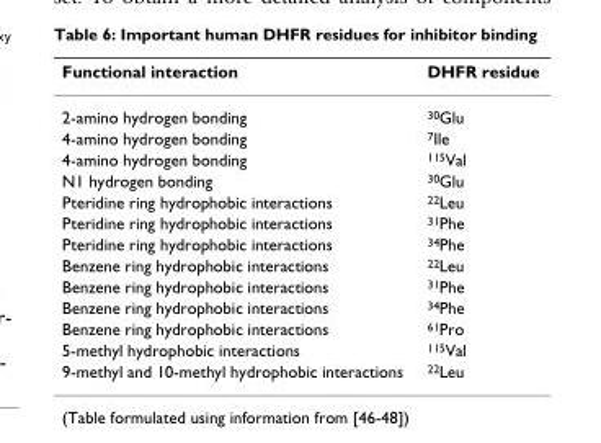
<table><thead><tr><td>Functional interaction</td><td>DHFR residue</td></tr></thead><tbody><tr><td>2-amino hydrogen bonding</td><td><sup>30</sup>Glu</td></tr><tr><td>4-amino hydrogen bonding</td><td><sup>7</sup>Ile</td></tr><tr><td>4-amino hydrogen bonding</td><td><sup>115</sup>Val</td></tr><tr><td>N1 hydrogen bonding</td><td><sup>30</sup>Glu</td></tr><tr><td>Pteridine ring hydrophobic interactions</td><td><sup>22</sup>Leu</td></tr><tr><td>Pteridine ring hydrophobic interactions</td><td><sup>31</sup>Phe</td></tr><tr><td>Pteridine ring hydrophobic interactions</td><td><sup>34</sup>Phe</td></tr><tr><td>Benzene ring hydrophobic interactions</td><td><sup>22</sup>Leu</td></tr><tr><td>Benzene ring hydrophobic interactions</td><td><sup>31</sup>Phe</td></tr><tr><td>Benzene ring hydrophobic interactions</td><td><sup>34</sup>Phe</td></tr><tr><td>Benzene ring hydrophobic interactions</td><td><sup>61</sup>Pro</td></tr><tr><td>5-methyl hydrophobic interactions</td><td><sup>115</sup>Val</td></tr><tr><td>9-methyl and 10-methyl hydrophobic interactions</td><td><sup>22</sup>Leu</td></tr></tbody></table>